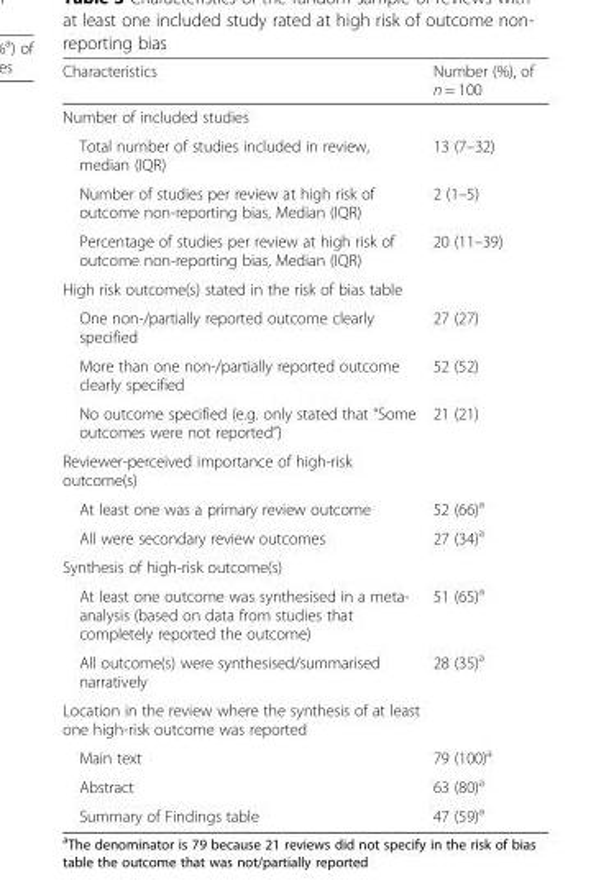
<table><thead><tr><td>Characteristics</td><td>Number (%), of n = 100</td></tr></thead><tbody><tr><td colspan="2">Number of included studies</td></tr><tr><td>Total number of studies included in review, median (IQR)</td><td>13 (7–32)</td></tr><tr><td>Number of studies per review at high risk of outcome non-reporting bias, Median (IQR)</td><td>2 (1–5)</td></tr><tr><td>Percentage of studies per review at high risk of outcome non-reporting bias, Median (IQR)</td><td>20 (11–39)</td></tr><tr><td colspan="2">High risk outcome(s) stated in the risk of bias table</td></tr><tr><td>One non-/partially reported outcome clearly specified</td><td>27 (27)</td></tr><tr><td>More than one non-/partially reported outcome clearly specified</td><td>52 (52)</td></tr><tr><td>No outcome specified (e.g. only stated that “Some outcomes were not reported”)</td><td>21 (21)</td></tr><tr><td colspan="2">Reviewer-perceived importance of high-risk outcome(s)</td></tr><tr><td>At least one was a primary review outcome</td><td>52 (66)<sup>a</sup></td></tr><tr><td>All were secondary review outcomes</td><td>27 (34)<sup>a</sup></td></tr><tr><td colspan="2">Synthesis of high-risk outcome(s)</td></tr><tr><td>At least one outcome was synthesised in a meta- analysis (based on data from studies that completely reported the outcome)</td><td>51 (65)<sup>a</sup></td></tr><tr><td>All outcome(s) were synthesised/summarised narratively</td><td>28 (35)<sup>a</sup></td></tr><tr><td colspan="2">Location in the review where the synthesis of at least one high-risk outcome was reported</td></tr><tr><td>Main text</td><td>79 (100)<sup>a</sup></td></tr><tr><td>Abstract</td><td>63 (80)<sup>a</sup></td></tr><tr><td>Summary of Findings table</td><td>47 (59)<sup>a</sup></td></tr></tbody></table>